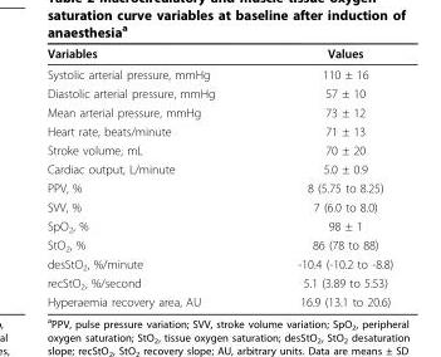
<table><thead><tr><td>Variables</td><td>Values</td></tr></thead><tbody><tr><td>Systolic arterial pressure, mmHg</td><td>110 ± 16</td></tr><tr><td>Diastolic arterial pressure, mmHg</td><td>57 ± 10</td></tr><tr><td>Mean arterial pressure, mmHg</td><td>73 ± 12</td></tr><tr><td>Heart rate, beats/minute</td><td>71 ± 13</td></tr><tr><td>Stroke volume, mL</td><td>70 ± 20</td></tr><tr><td>Cardiac output, L/minute</td><td>5.0 ± 0.9</td></tr><tr><td>PPV, %</td><td>8 (5.75 to 8.25)</td></tr><tr><td>SVV, %</td><td>7 (6.0 to 8.0)</td></tr><tr><td>SpO<sub>2</sub>, %</td><td>98 ± 1</td></tr><tr><td>StO<sub>2</sub>, %</td><td>86 (78 to 88)</td></tr><tr><td>desStO<sub>2</sub>, %/minute</td><td>-10.4 (-10.2 to -8.8)</td></tr><tr><td>recStO<sub>2</sub>, %/second</td><td>5.1 (3.89 to 5.53)</td></tr><tr><td>Hyperaemia recovery area, AU</td><td>16.9 (13.1 to 20.6)</td></tr></tbody></table>